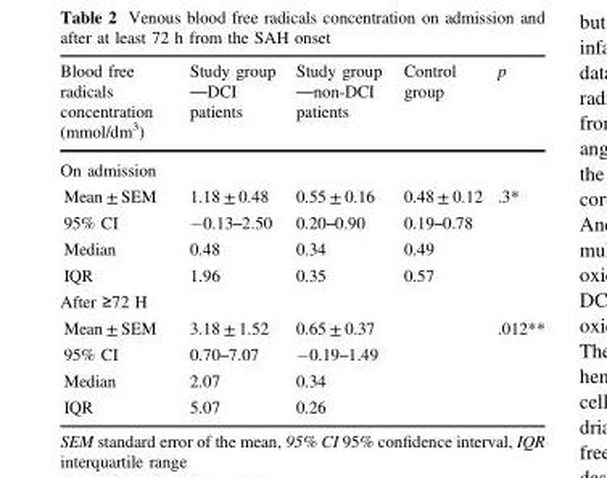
<table><thead><tr><td>Blood free radicals concentration (mmol/dm<sup>3</sup>)</td><td>Study group —DCI patients</td><td>Study group —non-DCI patients</td><td>Control group</td><td>p</td></tr></thead><tbody><tr><td colspan="5">On admission</td></tr><tr><td>Mean ± SEM</td><td>1.18 ± 0.48</td><td>0.55 ± 0.16</td><td>0.48 ± 0.12</td><td>.3*</td></tr><tr><td>95% CI</td><td>−0.13–2.50</td><td>0.20–0.90</td><td>0.19–0.78</td><td></td></tr><tr><td>Median</td><td>0.48</td><td>0.34</td><td>0.49</td><td></td></tr><tr><td>IQR</td><td>1.96</td><td>0.35</td><td>0.57</td><td></td></tr><tr><td colspan="5">After ≥72 H</td></tr><tr><td>Mean ± SEM</td><td>3.18 ± 1.52</td><td>0.65 ± 0.37</td><td></td><td>.012**</td></tr><tr><td>95% CI</td><td>0.70–7.07</td><td>−0.19–1.49</td><td></td><td></td></tr><tr><td>Median</td><td>2.07</td><td>0.34</td><td></td><td></td></tr><tr><td>IQR</td><td>5.07</td><td>0.26</td><td></td><td></td></tr></tbody></table>